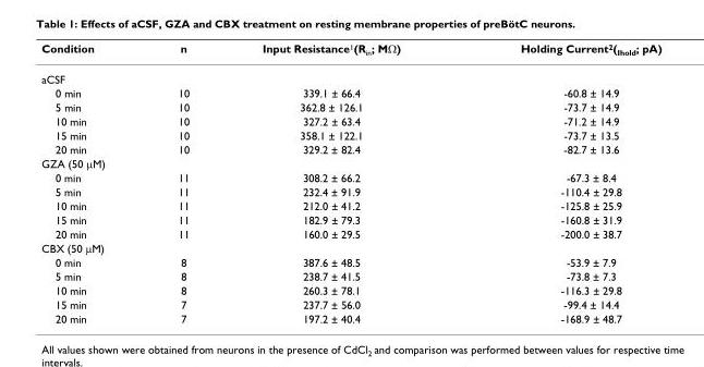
<table><thead><tr><td>Condition</td><td>n</td><td>Input Resistance<sup>1</sup>(R<sub>in</sub>; MΩ)</td><td>Holding Current<sup>2</sup>(<sub>Ihold</sub>; pA)</td></tr></thead><tbody><tr><td colspan="4">aCSF</td></tr><tr><td>0 min</td><td>10</td><td>339.1 ± 66.4</td><td>-60.8 ± 14.9</td></tr><tr><td>5 min</td><td>10</td><td>362.8 ± 126.1</td><td>-73.7 ± 14.9</td></tr><tr><td>10 min</td><td>10</td><td>327.2 ± 63.4</td><td>-71.2 ± 14.9</td></tr><tr><td>15 min</td><td>10</td><td>358.1 ± 122.1</td><td>-73.7 ± 13.5</td></tr><tr><td>20 min</td><td>10</td><td>329.2 ± 82.4</td><td>-82.7 ± 13.6</td></tr><tr><td colspan="4">GZA (50 μM)</td></tr><tr><td>0 min</td><td>11</td><td>308.2 ± 66.2</td><td>-67.3 ± 8.4</td></tr><tr><td>5 min</td><td>11</td><td>232.4 ± 91.9</td><td>-110.4 ± 29.8</td></tr><tr><td>10 min</td><td>11</td><td>212.0 ± 41.2</td><td>-125.8 ± 25.9</td></tr><tr><td>15 min</td><td>11</td><td>182.9 ± 79.3</td><td>-160.8 ± 31.9</td></tr><tr><td>20 min</td><td>11</td><td>160.0 ± 29.5</td><td>-200.0 ± 38.7</td></tr><tr><td colspan="4">CBX (50 μM)</td></tr><tr><td>0 min</td><td>8</td><td>387.6 ± 48.5</td><td>-53.9 ± 7.9</td></tr><tr><td>5 min</td><td>8</td><td>238.7 ± 41.5</td><td>-73.8 ± 7.3</td></tr><tr><td>10 min</td><td>8</td><td>260.3 ± 78.1</td><td>-116.3 ± 29.8</td></tr><tr><td>15 min</td><td>7</td><td>237.7 ± 56.0</td><td>-99.4 ± 14.4</td></tr><tr><td>20 min</td><td>7</td><td>197.2 ± 40.4</td><td>-168.9 ± 48.7</td></tr></tbody></table>